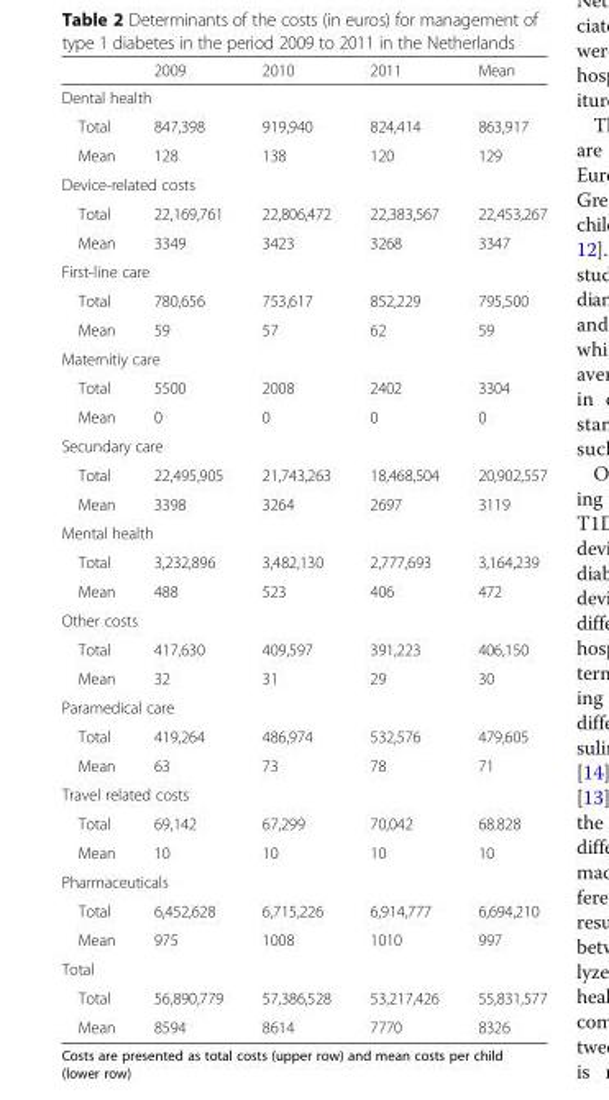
<table><thead><tr><td></td><td>2009</td><td>2010</td><td>2011</td><td>Mean</td></tr></thead><tbody><tr><td colspan="5">Dental health</td></tr><tr><td>Total</td><td>847,398</td><td>919,940</td><td>824,414</td><td>863,917</td></tr><tr><td>Mean</td><td>128</td><td>138</td><td>120</td><td>129</td></tr><tr><td colspan="5">Device-related costs</td></tr><tr><td>Total</td><td>22,169,761</td><td>22,806,472</td><td>22,383,567</td><td>22,453,267</td></tr><tr><td>Mean</td><td>3349</td><td>3423</td><td>3268</td><td>3347</td></tr><tr><td colspan="5">First-line care</td></tr><tr><td>Total</td><td>780,656</td><td>753,617</td><td>852,229</td><td>795,500</td></tr><tr><td>Mean</td><td>59</td><td>57</td><td>62</td><td>59</td></tr><tr><td colspan="5">Maternitiy care</td></tr><tr><td>Total</td><td>5500</td><td>2008</td><td>2402</td><td>3304</td></tr><tr><td>Mean</td><td>0</td><td>0</td><td>0</td><td>0</td></tr><tr><td colspan="5">Secundary care</td></tr><tr><td>Total</td><td>22,495,905</td><td>21,743,263</td><td>18,468,504</td><td>20,902,557</td></tr><tr><td>Mean</td><td>3398</td><td>3264</td><td>2697</td><td>3119</td></tr><tr><td colspan="5">Mental health</td></tr><tr><td>Total</td><td>3,232,896</td><td>3,482,130</td><td>2,777,693</td><td>3,164,239</td></tr><tr><td>Mean</td><td>488</td><td>523</td><td>406</td><td>472</td></tr><tr><td colspan="5">Other costs</td></tr><tr><td>Total</td><td>417,630</td><td>409,597</td><td>391,223</td><td>406,150</td></tr><tr><td>Mean</td><td>32</td><td>31</td><td>29</td><td>30</td></tr><tr><td colspan="5">Paramedical care</td></tr><tr><td>Total</td><td>419,264</td><td>486,974</td><td>532,576</td><td>479,605</td></tr><tr><td>Mean</td><td>63</td><td>73</td><td>78</td><td>71</td></tr><tr><td colspan="5">Travel related costs</td></tr><tr><td>Total</td><td>69,142</td><td>67,299</td><td>70,042</td><td>68.828</td></tr><tr><td>Mean</td><td>10</td><td>10</td><td>10</td><td>10</td></tr><tr><td colspan="5">Pharmaceuticals</td></tr><tr><td>Total</td><td>6,452,628</td><td>6,715,226</td><td>6,914,777</td><td>6,694,210</td></tr><tr><td>Mean</td><td>975</td><td>1008</td><td>1010</td><td>997</td></tr><tr><td colspan="5">Total</td></tr><tr><td>Total</td><td>56,890,779</td><td>57,386,528</td><td>53,217,426</td><td>55,831,577</td></tr><tr><td>Mean</td><td>8594</td><td>8614</td><td>7770</td><td>8326</td></tr></tbody></table>